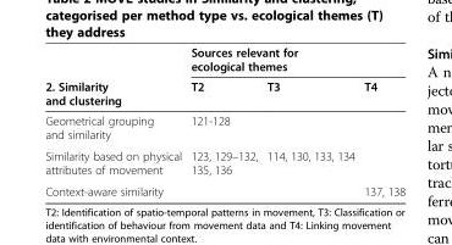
<table><thead><tr><td rowspan="2">2. Similarity and clustering</td><td colspan="3">Sources relevant for ecological themes</td></tr><tr><td>T2</td><td>T3</td><td>T4</td></tr></thead><tbody><tr><td>Geometrical grouping and similarity</td><td>121-128</td><td></td><td></td></tr><tr><td>Similarity based on physical attributes of movement</td><td>123, 129–132, 135, 136</td><td>114, 130, 133, 134</td><td></td></tr><tr><td>Context-aware similarity</td><td></td><td></td><td>137, 138</td></tr></tbody></table>